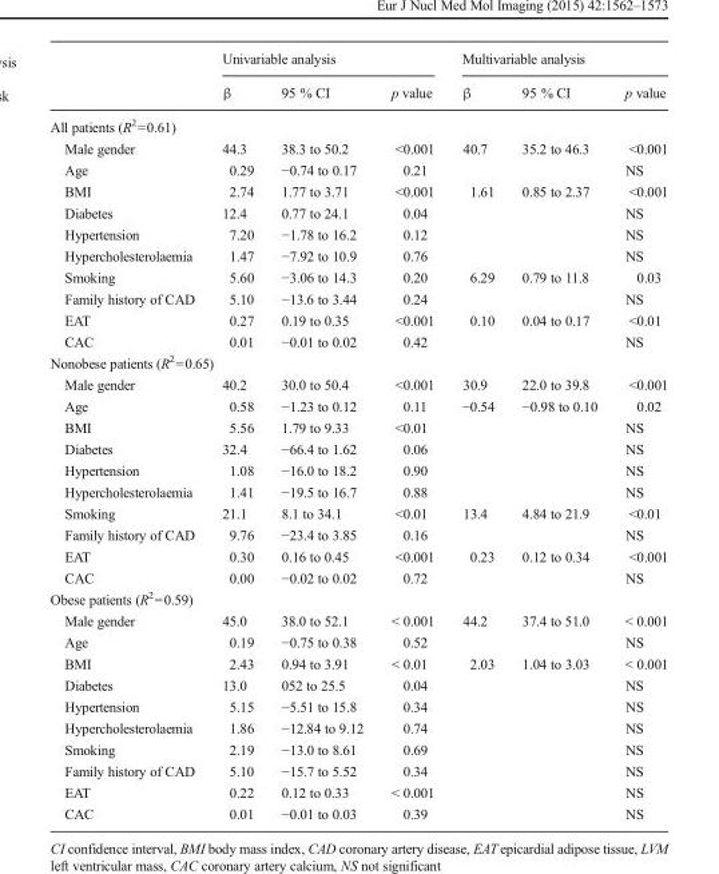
<table><thead><tr><td rowspan="2"></td><td colspan="3">Univariable analysis</td><td colspan="3">Multivariable analysis</td></tr><tr><td>β</td><td>95 % CI</td><td>p value</td><td>β</td><td>95 % CI</td><td>p value</td></tr></thead><tbody><tr><td colspan="7">All patients (R<sup>2</sup>=0.61)</td></tr><tr><td>Male gender</td><td>44.3</td><td>38.3 to 50.2</td><td>&lt;0.001</td><td>40.7</td><td>35.2 to 46.3</td><td>&lt;0.001</td></tr><tr><td>Age</td><td>0.29</td><td>−0.74 to 0.17</td><td>0.21</td><td></td><td></td><td>NS</td></tr><tr><td>BMI</td><td>2.74</td><td>1.77 to 3.71</td><td>&lt;0.001</td><td>1.61</td><td>0.85 to 2.37</td><td>&lt;0.001</td></tr><tr><td>Diabetes</td><td>12.4</td><td>0.77 to 24.1</td><td>0.04</td><td></td><td></td><td>NS</td></tr><tr><td>Hypertension</td><td>7.20</td><td>−1.78 to 16.2</td><td>0.12</td><td></td><td></td><td>NS</td></tr><tr><td>Hypercholesterolaemia</td><td>1.47</td><td>−7.92 to 10.9</td><td>0.76</td><td></td><td></td><td>NS</td></tr><tr><td>Smoking</td><td>5.60</td><td>−3.06 to 14.3</td><td>0.20</td><td>6.29</td><td>0.79 to 11.8</td><td>0.03</td></tr><tr><td>Family history of CAD</td><td>5.10</td><td>−13.6 to 3.44</td><td>0.24</td><td></td><td></td><td>NS</td></tr><tr><td>EAT</td><td>0.27</td><td>0.19 to 0.35</td><td>&lt;0.001</td><td>0.10</td><td>0.04 to 0.17</td><td>&lt;0.01</td></tr><tr><td>CAC</td><td>0.01</td><td>−0.01 to 0.02</td><td>0.42</td><td></td><td></td><td>NS</td></tr><tr><td colspan="7">Nonobese patients (R<sup>2</sup>=0.65)</td></tr><tr><td>Male gender</td><td>40.2</td><td>30.0 to 50.4</td><td>&lt;0.001</td><td>30.9</td><td>22.0 to 39.8</td><td>&lt;0.001</td></tr><tr><td>Age</td><td>0.58</td><td>−1.23 to 0.12</td><td>0.11</td><td>−0.54</td><td>−0.98 to 0.10</td><td>0.02</td></tr><tr><td>BMI</td><td>5.56</td><td>1.79 to 9.33</td><td>&lt;0.01</td><td></td><td></td><td>NS</td></tr><tr><td>Diabetes</td><td>32.4</td><td>−66.4 to 1.62</td><td>0.06</td><td></td><td></td><td>NS</td></tr><tr><td>Hypertension</td><td>1.08</td><td>−16.0 to 18.2</td><td>0.90</td><td></td><td></td><td>NS</td></tr><tr><td>Hypercholesterolaemia</td><td>1.41</td><td>−19.5 to 16.7</td><td>0.88</td><td></td><td></td><td>NS</td></tr><tr><td>Smoking</td><td>21.1</td><td>8.1 to 34.1</td><td>&lt;0.01</td><td>13.4</td><td>4.84 to 21.9</td><td>&lt;0.01</td></tr><tr><td>Family history of CAD</td><td>9.76</td><td>−23.4 to 3.85</td><td>0.16</td><td></td><td></td><td>NS</td></tr><tr><td>EAT</td><td>0.30</td><td>0.16 to 0.45</td><td>&lt;0.001</td><td>0.23</td><td>0.12 to 0.34</td><td>&lt;0.001</td></tr><tr><td>CAC</td><td>0.00</td><td>−0.02 to 0.02</td><td>0.72</td><td></td><td></td><td>NS</td></tr><tr><td colspan="7">Obese patients (R<sup>2</sup>=0.59)</td></tr><tr><td>Male gender</td><td>45.0</td><td>38.0 to 52.1</td><td>&lt; 0.001</td><td>44.2</td><td>37.4 to 51.0</td><td>&lt; 0.001</td></tr><tr><td>Age</td><td>0.19</td><td>−0.75 to 0.38</td><td>0.52</td><td></td><td></td><td>NS</td></tr><tr><td>BMI</td><td>2.43</td><td>0.94 to 3.91</td><td>&lt; 0.01</td><td>2.03</td><td>1.04 to 3.03</td><td>&lt; 0.001</td></tr><tr><td>Diabetes</td><td>13.0</td><td>052 to 25.5</td><td>0.04</td><td></td><td></td><td>NS</td></tr><tr><td>Hypertension</td><td>5.15</td><td>−5.51 to 15.8</td><td>0.34</td><td></td><td></td><td>NS</td></tr><tr><td>Hypercholesterolaemia</td><td>1.86</td><td>−12.84 to 9.12</td><td>0.74</td><td></td><td></td><td>NS</td></tr><tr><td>Smoking</td><td>2.19</td><td>−13.0 to 8.61</td><td>0.69</td><td></td><td></td><td>NS</td></tr><tr><td>Family history of CAD</td><td>5.10</td><td>−15.7 to 5.52</td><td>0.34</td><td></td><td></td><td>NS</td></tr><tr><td>EAT</td><td>0.22</td><td>0.12 to 0.33</td><td>&lt; 0.001</td><td></td><td></td><td>NS</td></tr><tr><td>CAC</td><td>0.01</td><td>−0.01 to 0.03</td><td>0.39</td><td></td><td></td><td>NS</td></tr></tbody></table>